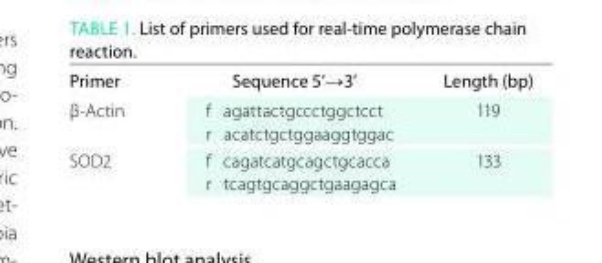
<table><thead><tr><td>Primer</td><td>Sequence 5’→3’</td><td>Length (bp)</td></tr></thead><tbody><tr><td>β-Actin</td><td>f agattactgccctggctcct r acatctgctggaaggtggac</td><td>119</td></tr><tr><td>SOD2</td><td>f cagatcatgcagctgcacca r tcagtgcaggctgaagagca</td><td>133</td></tr></tbody></table>